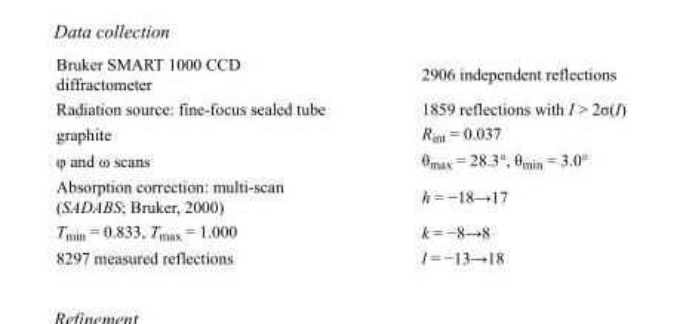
<table><tbody><tr><td>Bruker SMART 1000 CCD diffractometer</td><td>2906 independent reflections</td></tr><tr><td>Radiation source: fine-focus sealed tube</td><td>1859 reflections with I &gt; 2σ(I)</td></tr><tr><td>graphite</td><td>R<sub>int</sub> = 0.037</td></tr><tr><td>φ and ω scans</td><td>θ<sub>max</sub> = 28.3°, θ<sub>min</sub> = 3.0°</td></tr><tr><td>Absorption correction: multi-scan (SADABS; Bruker, 2000)</td><td>h = −18→17</td></tr><tr><td>T<sub>min</sub> = 0.833, T<sub>max</sub> = 1.000</td><td>k = −8→8</td></tr><tr><td>8297 measured reflections</td><td>l = −13→18</td></tr></tbody></table>